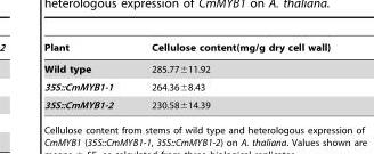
<table><thead><tr><td>Plant</td><td>Cellulose content(mg/g dry cell wall)</td></tr></thead><tbody><tr><td>Wild type</td><td>285.77±11.92</td></tr><tr><td>35S::CmMYB1-1</td><td>264.36±8.43</td></tr><tr><td>35S::CmMYB1-2</td><td>230.58±14.39</td></tr></tbody></table>